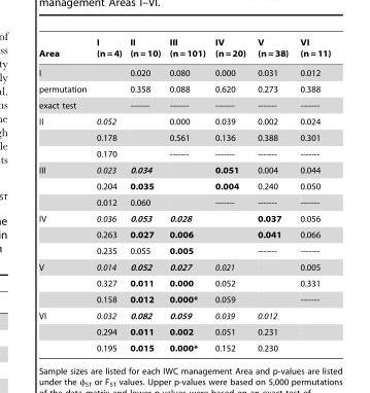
<table><thead><tr><td>Area</td><td>I (n = 4)</td><td>II (n = 10)</td><td>III (n = 101)</td><td>IV (n = 20)</td><td>V (n = 38)</td><td>VI (n = 11)</td></tr></thead><tbody><tr><td>I</td><td></td><td>0.020</td><td>0.080</td><td>0.000</td><td>0.031</td><td>0.012</td></tr><tr><td>permutation</td><td></td><td>0.358</td><td>0.088</td><td>0.620</td><td>0.273</td><td>0.388</td></tr><tr><td>exact test</td><td></td><td>-------</td><td>-------</td><td>-------</td><td>-------</td><td>-------</td></tr><tr><td rowspan="3">II</td><td>0.052</td><td></td><td>0.000</td><td>0.039</td><td>0.002</td><td>0.024</td></tr><tr><td>0.178</td><td></td><td>0.561</td><td>0.136</td><td>0.388</td><td>0.301</td></tr><tr><td>0.170</td><td></td><td>-------</td><td>-------</td><td>-------</td><td>-------</td></tr><tr><td rowspan="3">III</td><td>0.023</td><td>0.034</td><td></td><td>0.051</td><td>0.004</td><td>0.044</td></tr><tr><td>0.204</td><td>0.035</td><td></td><td>0.004</td><td>0.240</td><td>0.050</td></tr><tr><td>0.012</td><td>0.060</td><td></td><td>-------</td><td>-------</td><td>-------</td></tr><tr><td rowspan="3">IV</td><td>0.036</td><td>0.053</td><td>0.028</td><td></td><td>0.037</td><td>0.056</td></tr><tr><td>0.263</td><td>0.027</td><td>0.006</td><td></td><td>0.041</td><td>0.066</td></tr><tr><td>0.235</td><td>0.055</td><td>0.005</td><td></td><td>-------</td><td>-------</td></tr><tr><td rowspan="3">V</td><td>0.014</td><td>0.052</td><td>0.027</td><td>0.021</td><td></td><td>0.005</td></tr><tr><td>0.327</td><td>0.011</td><td>0.000</td><td>0.052</td><td></td><td>0.331</td></tr><tr><td>0.158</td><td>0.012</td><td>0.000*</td><td>0.059</td><td></td><td>-------</td></tr><tr><td rowspan="3">VI</td><td>0.032</td><td>0.082</td><td>0.059</td><td>0.039</td><td>0.012</td><td></td></tr><tr><td>0.294</td><td>0.011</td><td>0.002</td><td>0.051</td><td>0.231</td><td></td></tr><tr><td>0.195</td><td>0.015</td><td>0.000*</td><td>0.152</td><td>0.230</td><td></td></tr></tbody></table>